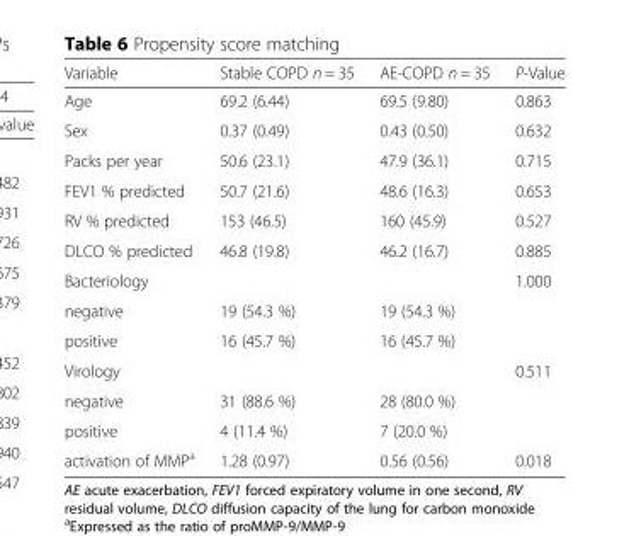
<table><thead><tr><td>Variable</td><td>Stable COPD n = 35</td><td>AE-COPD n = 35</td><td>P-Value</td></tr></thead><tbody><tr><td>Age</td><td>69.2 (6.44)</td><td>69.5 (9.80)</td><td>0.863</td></tr><tr><td>Sex</td><td>0.37 (0.49)</td><td>0.43 (0.50)</td><td>0.632</td></tr><tr><td>Packs per year</td><td>50.6 (23.1)</td><td>47.9 (36.1)</td><td>0.715</td></tr><tr><td>FEV1 % predicted</td><td>50.7 (21.6)</td><td>48.6 (16.3)</td><td>0.653</td></tr><tr><td>RV % predicted</td><td>153 (46.5)</td><td>160 (45.9)</td><td>0.527</td></tr><tr><td>DLCO % predicted</td><td>46.8 (19.8)</td><td>46.2 (16.7)</td><td>0.885</td></tr><tr><td>Bacteriology</td><td></td><td></td><td>1.000</td></tr><tr><td>negative</td><td>19 (54.3 %)</td><td>19 (54.3 %)</td><td></td></tr><tr><td>positive</td><td>16 (45.7 %)</td><td>16 (45.7 %)</td><td></td></tr><tr><td>Virology</td><td></td><td></td><td>0.511</td></tr><tr><td>negative</td><td>31 (88.6 %)</td><td>28 (80.0 %)</td><td></td></tr><tr><td>positive</td><td>4 (11.4 %)</td><td>7 (20.0 %)</td><td></td></tr><tr><td>activation of MMP<sup>a</sup></td><td>1.28 (0.97)</td><td>0.56 (0.56)</td><td>0.018</td></tr></tbody></table>